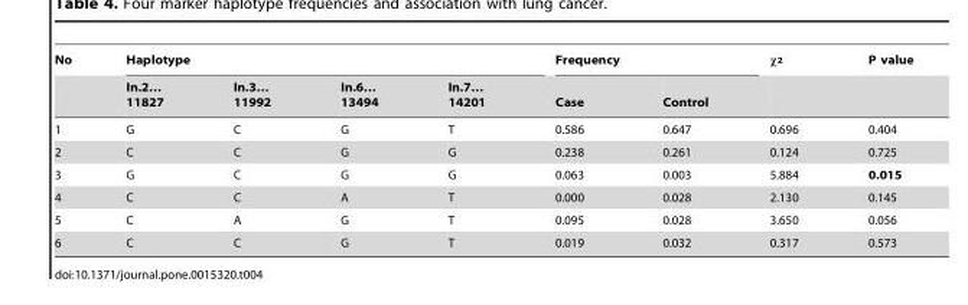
<table><thead><tr><td rowspan="2">No</td><td colspan="4">Haplotype</td><td colspan="2">Frequency</td><td rowspan="2">χ<sup>2</sup></td><td rowspan="2">P value</td></tr><tr><td>In.2… 11827</td><td>In.3… 11992</td><td>In.6… 13494</td><td>In.7… 14201</td><td>Case</td><td>Control</td></tr></thead><tbody><tr><td>1</td><td>G</td><td>C</td><td>G</td><td>T</td><td>0.586</td><td>0.647</td><td>0.696</td><td>0.404</td></tr><tr><td>2</td><td>C</td><td>C</td><td>G</td><td>G</td><td>0.238</td><td>0.261</td><td>0.124</td><td>0.725</td></tr><tr><td>3</td><td>G</td><td>C</td><td>G</td><td>G</td><td>0.063</td><td>0.003</td><td>5.884</td><td>0.015</td></tr><tr><td>4</td><td>C</td><td>C</td><td>A</td><td>T</td><td>0.000</td><td>0.028</td><td>2.130</td><td>0.145</td></tr><tr><td>5</td><td>C</td><td>A</td><td>G</td><td>T</td><td>0.095</td><td>0.028</td><td>3.650</td><td>0.056</td></tr><tr><td>6</td><td>C</td><td>C</td><td>G</td><td>T</td><td>0.019</td><td>0.032</td><td>0.317</td><td>0.573</td></tr></tbody></table>